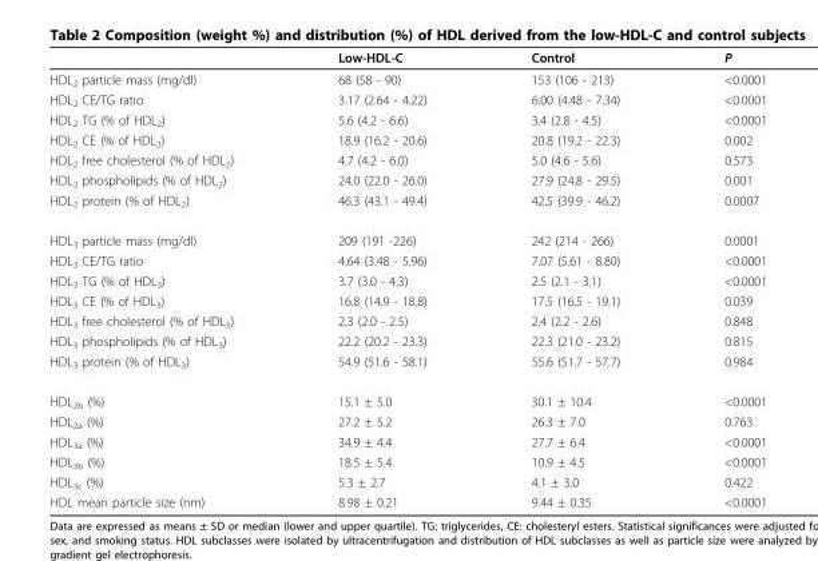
<table><thead><tr><td></td><td>Low-HDL-C</td><td>Control</td><td>P</td></tr></thead><tbody><tr><td>HDL<sub>2</sub> particle mass (mg/dl)</td><td>68 (58 - 90)</td><td>153 (106 - 213)</td><td>&lt;0.0001</td></tr><tr><td>HDL<sub>2</sub> CE/TG ratio</td><td>3.17 (2.64 - 4.22)</td><td>6.00 (4.48 - 7.34)</td><td>&lt;0.0001</td></tr><tr><td>HDL<sub>2</sub> TG (% of HDL<sub>2</sub>)</td><td>5.6 (4.2 - 6.6)</td><td>3.4 (2.8 - 4.5)</td><td>&lt;0.0001</td></tr><tr><td>HDL<sub>2</sub> CE (% of HDL<sub>2</sub>)</td><td>18.9 (16.2 - 20.6)</td><td>20.8 (19.2 - 22.3)</td><td>0.002</td></tr><tr><td>HDL<sub>2</sub> free cholesterol (% of HDL<sub>2</sub>)</td><td>4.7 (4.2 - 6.0)</td><td>5.0 (4.6 - 5.6)</td><td>0.573</td></tr><tr><td>HDL<sub>2</sub> phospholipids (% of HDL<sub>2</sub>)</td><td>24.0 (22.0 - 26.0)</td><td>27.9 (24.8 - 29.5)</td><td>0.001</td></tr><tr><td>HDL<sub>2</sub> protein (% of HDL<sub>2</sub>)</td><td>46.3 (43.1 - 49.4)</td><td>42.5 (39.9 - 46.2)</td><td>0.0007</td></tr><tr><td>HDL<sub>3</sub> particle mass (mg/dl)</td><td>209 (191 -226)</td><td>242 (214 - 266)</td><td>0.0001</td></tr><tr><td>HDL<sub>3</sub> CE/TG ratio</td><td>4.64 (3.48 - 5.96)</td><td>7.07 (5.61 - 8.80)</td><td>&lt;0.0001</td></tr><tr><td>HDL<sub>3</sub> TG (% of HDL<sub>3</sub>)</td><td>3.7 (3.0 - 4.3)</td><td>2.5 (2.1 - 3.1)</td><td>&lt;0.0001</td></tr><tr><td>HDL<sub>3</sub> CE (% of HDL<sub>3</sub>)</td><td>16.8 (14.9 - 18.8)</td><td>17.5 (16.5 - 19.1)</td><td>0.039</td></tr><tr><td>HDL<sub>3</sub> free cholesterol (% of HDL<sub>3</sub>)</td><td>2.3 (2.0 - 2.5)</td><td>2.4 (2.2 - 2.6)</td><td>0.848</td></tr><tr><td>HDL<sub>3</sub> phospholipids (% of HDL<sub>3</sub>)</td><td>22.2 (20.2 - 23.3)</td><td>22.3 (21.0 - 23.2)</td><td>0.815</td></tr><tr><td>HDL<sub>3</sub> protein (% of HDL<sub>3</sub>)</td><td>54.9 (51.6 - 58.1)</td><td>55.6 (51.7 - 57.7)</td><td>0.984</td></tr><tr><td>HDL<sub>2b</sub> (%)</td><td>15.1 ± 5.0</td><td>30.1 ± 10.4</td><td>&lt;0.0001</td></tr><tr><td>HDL<sub>2a</sub> (%)</td><td>27.2 ± 5.2</td><td>26.3 ± 7.0</td><td>0.763</td></tr><tr><td>HDL<sub>3a</sub> (%)</td><td>34.9 ± 4.4</td><td>27.7 ± 6.4</td><td>&lt;0.0001</td></tr><tr><td>HDL<sub>3b</sub> (%)</td><td>18.5 ± 5.4</td><td>10.9 ± 4.5</td><td>&lt;0.0001</td></tr><tr><td>HDL<sub>3c</sub> (%)</td><td>5.3 ± 2.7</td><td>4.1 ± 3.0</td><td>0.422</td></tr><tr><td>HDL mean particle size (nm)</td><td>8.98 ± 0.21</td><td>9.44 ± 0.35</td><td>&lt;0.0001</td></tr></tbody></table>